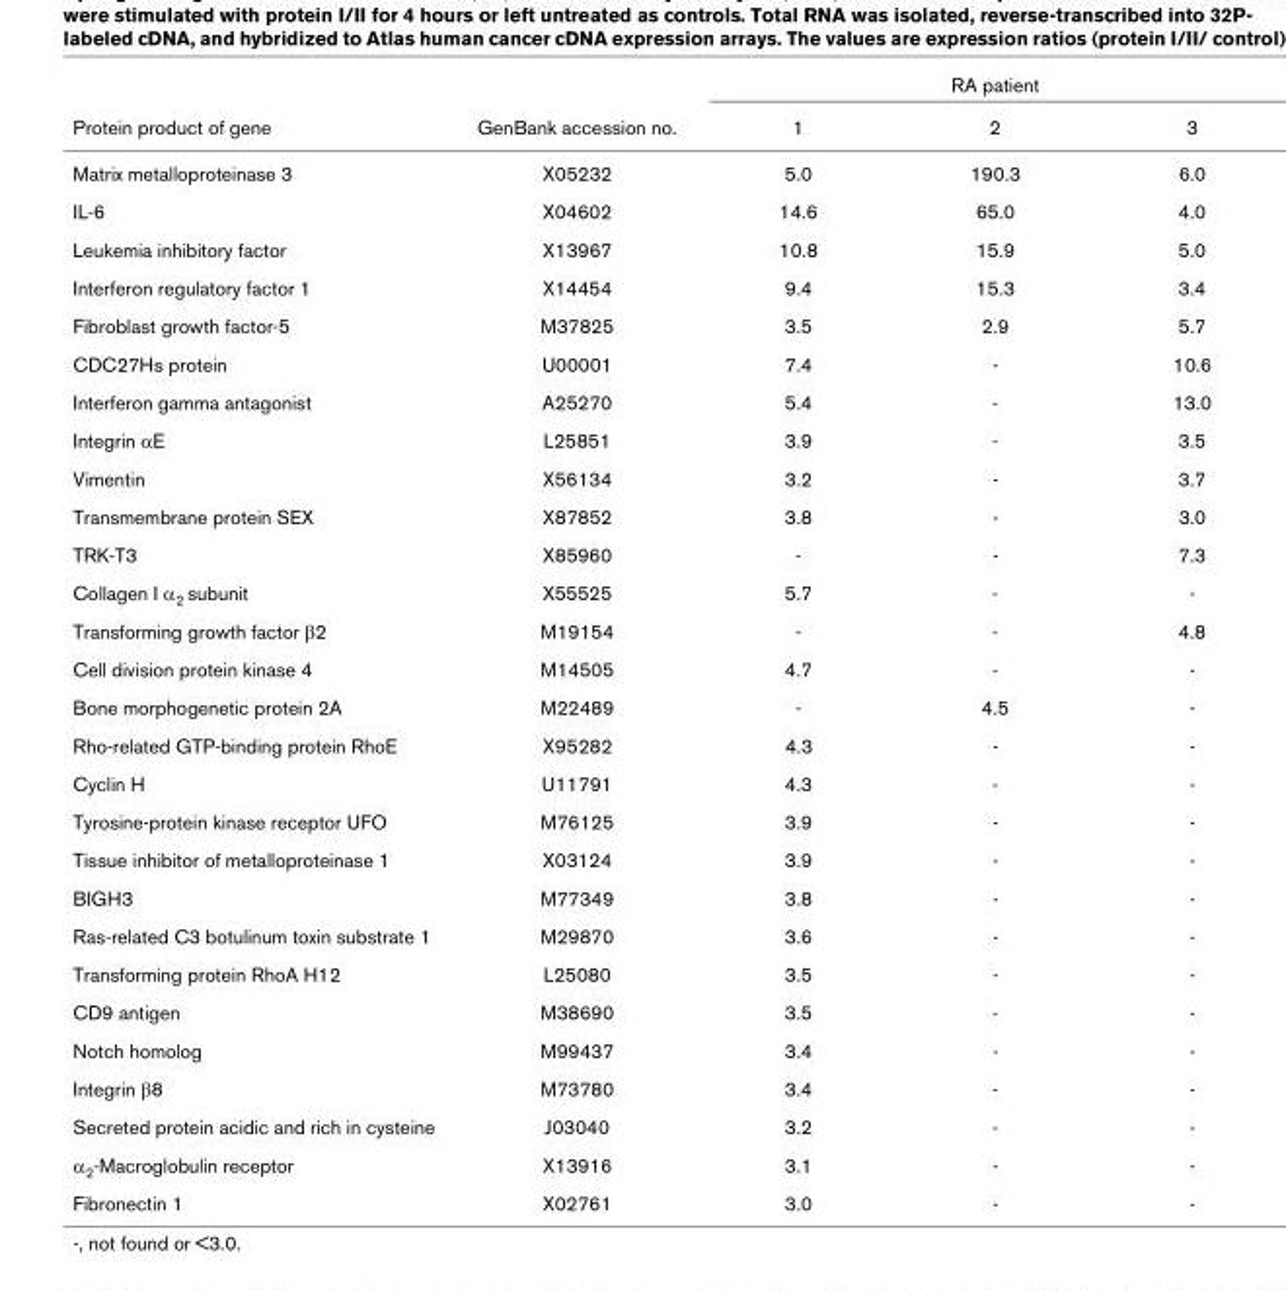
<table><thead><tr><td rowspan="2">Protein product of gene</td><td rowspan="2">GenBank accession no.</td><td colspan="3">RA patient</td></tr><tr><td>1</td><td>2</td><td>3</td></tr></thead><tbody><tr><td>Matrix metalloproteinase 3</td><td>X05232</td><td>5.0</td><td>190.3</td><td>6.0</td></tr><tr><td>IL-6</td><td>X04602</td><td>14.6</td><td>65.0</td><td>4.0</td></tr><tr><td>Leukemia inhibitory factor</td><td>X13967</td><td>10.8</td><td>15.9</td><td>5.0</td></tr><tr><td>Interferon regulatory factor 1</td><td>X14454</td><td>9.4</td><td>15.3</td><td>3.4</td></tr><tr><td>Fibroblast growth factor-5</td><td>M37825</td><td>3.5</td><td>2.9</td><td>5.7</td></tr><tr><td>CDC27Hs protein</td><td>U00001</td><td>7.4</td><td>-</td><td>10.6</td></tr><tr><td>Interferon gamma antagonist</td><td>A25270</td><td>5.4</td><td>-</td><td>13.0</td></tr><tr><td>Integrin αE</td><td>L25851</td><td>3.9</td><td>-</td><td>3.5</td></tr><tr><td>Vimentin</td><td>X56134</td><td>3.2</td><td>-</td><td>3.7</td></tr><tr><td>Transmembrane protein SEX</td><td>X87852</td><td>3.8</td><td>-</td><td>3.0</td></tr><tr><td>TRK-T3</td><td>X85960</td><td>-</td><td>-</td><td>7.3</td></tr><tr><td>Collagen I α2 subunit</td><td>X55525</td><td>5.7</td><td>-</td><td>-</td></tr><tr><td>Transforming growth factor β2</td><td>M19154</td><td>-</td><td>-</td><td>4.8</td></tr><tr><td>Cell division protein kinase 4</td><td>M14505</td><td>4.7</td><td>-</td><td>-</td></tr><tr><td>Bone morphogenetic protein 2A</td><td>M22489</td><td>-</td><td>4.5</td><td>-</td></tr><tr><td>Rho-related GTP-binding protein RhoE</td><td>X95282</td><td>4.3</td><td>-</td><td>-</td></tr><tr><td>Cyclin H</td><td>U11791</td><td>4.3</td><td>-</td><td>-</td></tr><tr><td>Tyrosine-protein kinase receptor UFO</td><td>M76125</td><td>3.9</td><td>-</td><td>-</td></tr><tr><td>Tissue inhibitor of metalloproteinase 1</td><td>X03124</td><td>3.9</td><td>-</td><td>-</td></tr><tr><td>BIGH3</td><td>M77349</td><td>3.8</td><td>-</td><td>-</td></tr><tr><td>Ras-related C3 botulinum toxin substrate 1</td><td>M29870</td><td>3.6</td><td>-</td><td>-</td></tr><tr><td>Transforming protein RhoA H12</td><td>L25080</td><td>3.5</td><td>-</td><td>-</td></tr><tr><td>CD9 antigen</td><td>M38690</td><td>3.5</td><td>-</td><td>-</td></tr><tr><td>Notch homolog</td><td>M99437</td><td>3.4</td><td>-</td><td>-</td></tr><tr><td>Integrin β8</td><td>M73780</td><td>3.4</td><td>-</td><td>-</td></tr><tr><td>Secreted protein acidic and rich in cysteine</td><td>J03040</td><td>3.2</td><td>-</td><td>-</td></tr><tr><td>α2-Macroglobulin receptor</td><td>X13916</td><td>3.1</td><td>-</td><td>-</td></tr><tr><td>Fibronectin 1</td><td>X02761</td><td>3.0</td><td>-</td><td>-</td></tr></tbody></table>